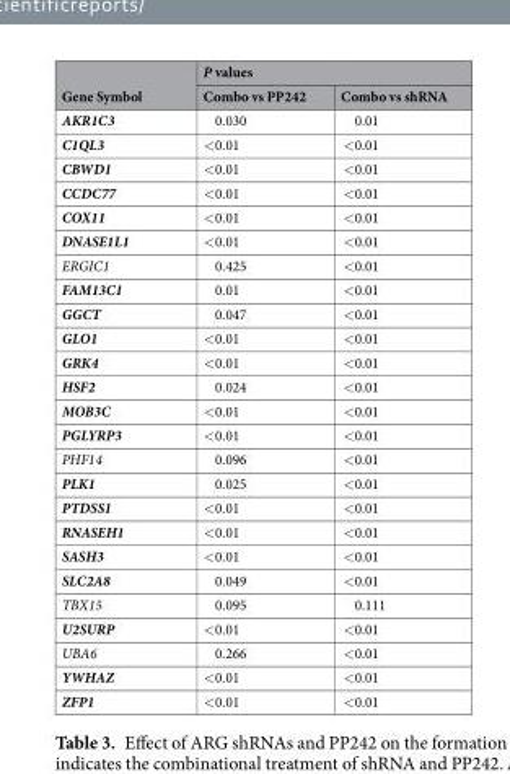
<table><thead><tr><td rowspan="2">Gene Symbol</td><td colspan="2">P values</td></tr><tr><td>Combo vs PP242</td><td>Combo vs shRNA</td></tr></thead><tbody><tr><td>AKR1C3</td><td>0.030</td><td>0.01</td></tr><tr><td>C1QL3</td><td>&lt;0.01</td><td>&lt;0.01</td></tr><tr><td>CBWD1</td><td>&lt;0.01</td><td>&lt;0.01</td></tr><tr><td>CCDC77</td><td>&lt;0.01</td><td>&lt;0.01</td></tr><tr><td>COX11</td><td>&lt;0.01</td><td>&lt;0.01</td></tr><tr><td>DNASE1L1</td><td>&lt;0.01</td><td>&lt;0.01</td></tr><tr><td>ERGIC1</td><td>0.425</td><td>&lt;0.01</td></tr><tr><td>FAM13C1</td><td>0.01</td><td>&lt;0.01</td></tr><tr><td>GGCT</td><td>0.047</td><td>&lt;0.01</td></tr><tr><td>GLO1</td><td>&lt;0.01</td><td>&lt;0.01</td></tr><tr><td>GRK4</td><td>&lt;0.01</td><td>&lt;0.01</td></tr><tr><td>HSF2</td><td>0.024</td><td>&lt;0.01</td></tr><tr><td>MOB3C</td><td>&lt;0.01</td><td>&lt;0.01</td></tr><tr><td>PGLYRP3</td><td>&lt;0.01</td><td>&lt;0.01</td></tr><tr><td>PHF14</td><td>0.096</td><td>&lt;0.01</td></tr><tr><td>PLK1</td><td>0.025</td><td>&lt;0.01</td></tr><tr><td>PTDSS1</td><td>&lt;0.01</td><td>&lt;0.01</td></tr><tr><td>RNASEH1</td><td>&lt;0.01</td><td>&lt;0.01</td></tr><tr><td>SASH3</td><td>&lt;0.01</td><td>&lt;0.01</td></tr><tr><td>SLC2A8</td><td>0.049</td><td>&lt;0.01</td></tr><tr><td>TBX15</td><td>0.095</td><td>0.111</td></tr><tr><td>U2SURP</td><td>&lt;0.01</td><td>&lt;0.01</td></tr><tr><td>UBA6</td><td>0.266</td><td>&lt;0.01</td></tr><tr><td>YWHAZ</td><td>&lt;0.01</td><td>&lt;0.01</td></tr><tr><td>ZFP1</td><td>&lt;0.01</td><td>&lt;0.01</td></tr></tbody></table>